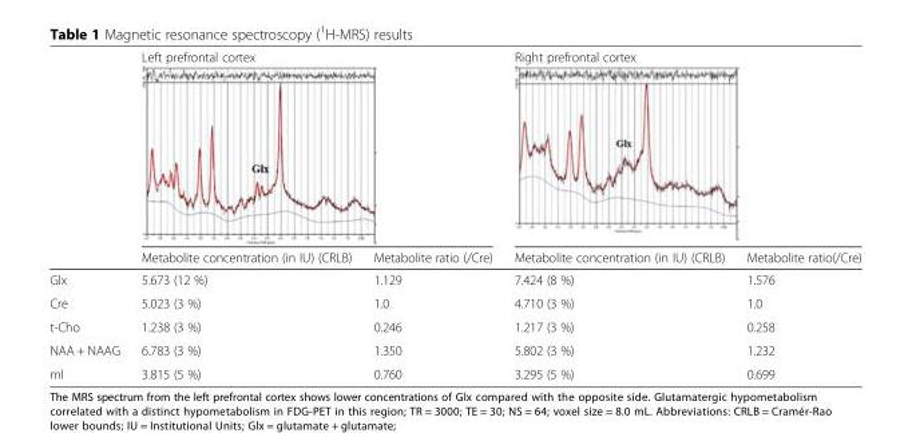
<table><thead><tr><td rowspan="2"></td><td colspan="2">Left prefrontal cortex</td><td colspan="2">Right prefrontal cortex</td></tr><tr><td>Metabolite concentration (in IU) (CRLB)</td><td>Metabolite ratio (/Cre)</td><td>Metabolite concentration (in IU) (CRLB)</td><td>Metabolite ratio(/Cre)</td></tr></thead><tbody><tr><td>Glx</td><td>5.673 (12 %)</td><td>1.129</td><td>7.424 (8 %)</td><td>1.576</td></tr><tr><td>Cre</td><td>5.023 (3 %)</td><td>1.0</td><td>4.710 (3 %)</td><td>1.0</td></tr><tr><td>t-Cho</td><td>1.238 (3 %)</td><td>0.246</td><td>1.217 (3 %)</td><td>0.258</td></tr><tr><td>NAA + NAAG</td><td>6.783 (3 %)</td><td>1.350</td><td>5.802 (3 %)</td><td>1.232</td></tr><tr><td>mI</td><td>3.815 (5 %)</td><td>0.760</td><td>3.295 (5 %)</td><td>0.699</td></tr></tbody></table>